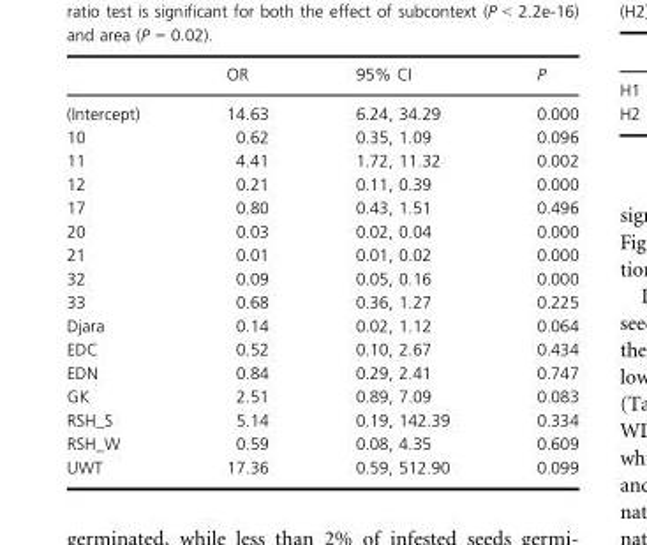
<table><thead><tr><td></td><td>OR</td><td>95% CI</td><td>P</td></tr></thead><tbody><tr><td>(Intercept)</td><td>14.63</td><td>6.24, 34.29</td><td>0.000</td></tr><tr><td>10</td><td>0.62</td><td>0.35, 1.09</td><td>0.096</td></tr><tr><td>11</td><td>4.41</td><td>1.72, 11.32</td><td>0.002</td></tr><tr><td>12</td><td>0.21</td><td>0.11, 0.39</td><td>0.000</td></tr><tr><td>17</td><td>0.80</td><td>0.43, 1.51</td><td>0.496</td></tr><tr><td>20</td><td>0.03</td><td>0.02, 0.04</td><td>0.000</td></tr><tr><td>21</td><td>0.01</td><td>0.01, 0.02</td><td>0.000</td></tr><tr><td>32</td><td>0.09</td><td>0.05, 0.16</td><td>0.000</td></tr><tr><td>33</td><td>0.68</td><td>0.36, 1.27</td><td>0.225</td></tr><tr><td>Djara</td><td>0.14</td><td>0.02, 1.12</td><td>0.064</td></tr><tr><td>EDC</td><td>0.52</td><td>0.10, 2.67</td><td>0.434</td></tr><tr><td>EDN</td><td>0.84</td><td>0.29, 2.41</td><td>0.747</td></tr><tr><td>GK</td><td>2.51</td><td>0.89, 7.09</td><td>0.083</td></tr><tr><td>RSH_S</td><td>5.14</td><td>0.19, 142.39</td><td>0.334</td></tr><tr><td>RSH_W</td><td>0.59</td><td>0.08, 4.35</td><td>0.609</td></tr><tr><td>UWT</td><td>17.36</td><td>0.59, 512.90</td><td>0.099</td></tr></tbody></table>